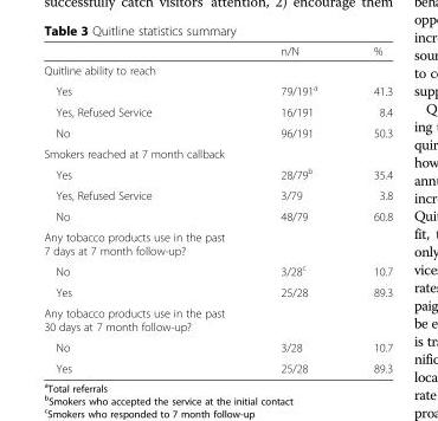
<table><thead><tr><td></td><td>n/N</td><td>%</td></tr></thead><tbody><tr><td colspan="3">Quitline ability to reach</td></tr><tr><td>Yes</td><td>79/191<sup>a</sup></td><td>41.3</td></tr><tr><td>Yes, Refused Service</td><td>16/191</td><td>8.4</td></tr><tr><td>No</td><td>96/191</td><td>50.3</td></tr><tr><td colspan="3">Smokers reached at 7 month callback</td></tr><tr><td>Yes</td><td>28/79<sup>b</sup></td><td>35.4</td></tr><tr><td>Yes, Refused Service</td><td>3/79</td><td>3.8</td></tr><tr><td>No</td><td>48/79</td><td>60.8</td></tr><tr><td colspan="3">Any tobacco products use in the past 7 days at 7 month follow-up?</td></tr><tr><td>No</td><td>3/28<sup>c</sup></td><td>10.7</td></tr><tr><td>Yes</td><td>25/28</td><td>89.3</td></tr><tr><td colspan="3">Any tobacco products use in the past 30 days at 7 month follow-up?</td></tr><tr><td>No</td><td>3/28</td><td>10.7</td></tr><tr><td>Yes</td><td>25/28</td><td>89.3</td></tr></tbody></table>